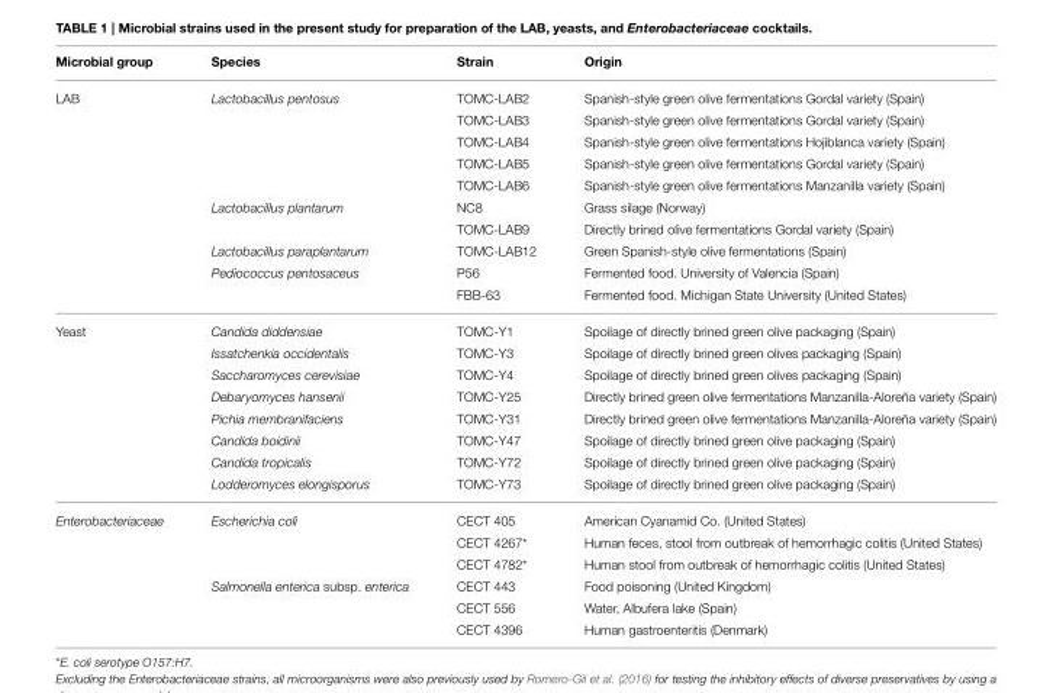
<table><thead><tr><td>Microbial group</td><td>Species</td><td>Strain</td><td>Origin</td></tr></thead><tbody><tr><td rowspan="10">LAB</td><td>Lactobacillus pentosus</td><td>TOMC-LAB2</td><td>Spanish-style green olive fermentations Gordal variety (Spain)</td></tr><tr><td></td><td>TOMC-LAB3</td><td>Spanish-style green olive fermentations Gordal variety (Spain)</td></tr><tr><td></td><td>TOMC-LAB4</td><td>Spanish-style green olive fermentations Hojiblanca variety (Spain)</td></tr><tr><td></td><td>TOMC-LAB5</td><td>Spanish-style green olive fermentations Gordal variety (Spain)</td></tr><tr><td></td><td>TOMC-LAB6</td><td>Spanish-style green olive fermentations Manzanilla variety (Spain)</td></tr><tr><td>Lactobacillus plantarum</td><td>NC8</td><td>Grass silage (Norway)</td></tr><tr><td></td><td>TOMC-LAB9</td><td>Directly brined olive fermentations Gordal variety (Spain)</td></tr><tr><td>Lactobacillus paraplantarum</td><td>TOMC-LAB12</td><td>Green Spanish-style olive fermentations (Spain)</td></tr><tr><td>Pediococcus pentosaceus</td><td>P56</td><td>Fermented food. University of Valencia (Spain)</td></tr><tr><td></td><td>FBB-63</td><td>Fermented food. Michigan State University (United States)</td></tr><tr><td rowspan="8">Yeast</td><td>Candida diddensiae</td><td>TOMC-Y1</td><td>Spoilage of directly brined green olive packaging (Spain)</td></tr><tr><td>Issatchenkia occidentalis</td><td>TOMC-Y3</td><td>Spoilage of directly brined green olives packaging (Spain)</td></tr><tr><td>Saccharomyces cerevisiae</td><td>TOMC-Y4</td><td>Spoilage of directly brined green olives packaging (Spain)</td></tr><tr><td>Debaryomyces hansenii</td><td>TOMC-Y25</td><td>Directly brined green olive fermentations Manzanilla-Aloreña variety (Spain)</td></tr><tr><td>Pichia membranifaciens</td><td>TOMC-Y31</td><td>Directly brined green olive fermentations Manzanilla-Aloreña variety (Spain)</td></tr><tr><td>Candida boidinii</td><td>TOMC-Y47</td><td>Spoilage of directly brined green olive packaging (Spain)</td></tr><tr><td>Candida tropicalis</td><td>TOMC-Y72</td><td>Spoilage of directly brined green olive packaging (Spain)</td></tr><tr><td>Lodderomyces elongisporus</td><td>TOMC-Y73</td><td>Spoilage of directly brined green olive packaging (Spain)</td></tr><tr><td rowspan="6">Enterobacteriaceae</td><td>Escherichia coli</td><td>CECT 405</td><td>American Cyanamid Co. (United States)</td></tr><tr><td></td><td>CECT 4267*</td><td>Human feces, stool from outbreak of hemorrhagic colitis (United States)</td></tr><tr><td></td><td>CECT 4782*</td><td>Human stool from outbreak of hemorrhagic colitis (United States)</td></tr><tr><td>Salmonella enterica subsp. enterica</td><td>CECT 443</td><td>Food poisoning (United Kingdom)</td></tr><tr><td></td><td>CECT 556</td><td>Water, Albufera lake (Spain)</td></tr><tr><td></td><td>CECT 4396</td><td>Human gastroenteritis (Denmark)</td></tr></tbody></table>